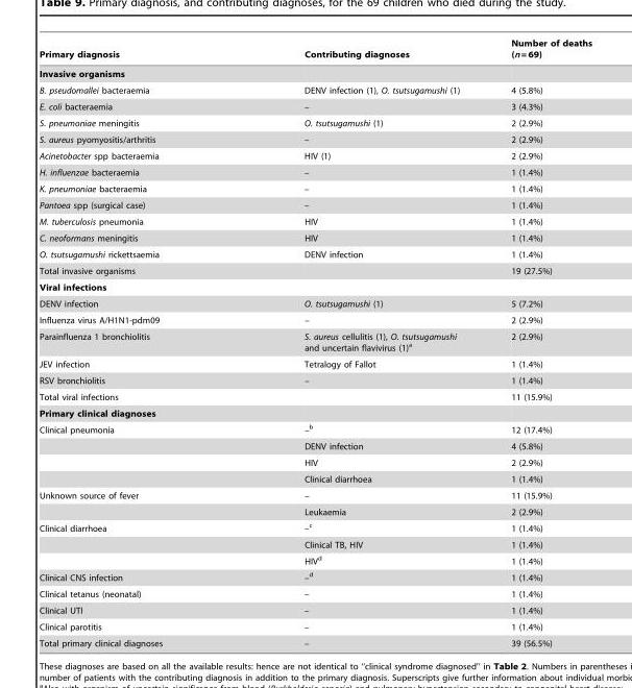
<table><thead><tr><td>Primary diagnosis</td><td>Contributing diagnoses</td><td>Number of deaths (n = 69)</td></tr></thead><tbody><tr><td colspan="3">Invasive organisms</td></tr><tr><td>B. pseudomallei bacteraemia</td><td>DENV infection (1), O. tsutsugamushi (1)</td><td>4 (5.8%)</td></tr><tr><td>E. coli bacteraemia</td><td>–</td><td>3 (4.3%)</td></tr><tr><td>S. pneumoniae meningitis</td><td>O. tsutsugamushi (1)</td><td>2 (2.9%)</td></tr><tr><td>S. aureus pyomyositis/arthritis</td><td>–</td><td>2 (2.9%)</td></tr><tr><td>Acinetobacter spp bacteraemia</td><td>HIV (1)</td><td>2 (2.9%)</td></tr><tr><td>H. influenzae bacteraemia</td><td>–</td><td>1 (1.4%)</td></tr><tr><td>K. pneumoniae bacteraemia</td><td>–</td><td>1 (1.4%)</td></tr><tr><td>Pantoea spp (surgical case)</td><td>–</td><td>1 (1.4%)</td></tr><tr><td>M. tuberculosis pneumonia</td><td>HIV</td><td>1 (1.4%)</td></tr><tr><td>C. neoformans meningitis</td><td>HIV</td><td>1 (1.4%)</td></tr><tr><td>O. tsutsugamushi rickettsaemia</td><td>DENV infection</td><td>1 (1.4%)</td></tr><tr><td>Total invasive organisms</td><td></td><td>19 (27.5%)</td></tr><tr><td colspan="3">Viral infections</td></tr><tr><td>DENV infection</td><td>O. tsutsugamushi (1)</td><td>5 (7.2%)</td></tr><tr><td>Influenza virus A/H1N1-pdm09</td><td>–</td><td>2 (2.9%)</td></tr><tr><td>Parainfluenza 1 bronchiolitis</td><td>S. aureus cellulitis (1), O. tsutsugamushi and uncertain flavivirus (1)<sup>a</sup></td><td>2 (2.9%)</td></tr><tr><td>JEV infection</td><td>Tetralogy of Fallot</td><td>1 (1.4%)</td></tr><tr><td>RSV bronchiolitis</td><td>–</td><td>1 (1.4%)</td></tr><tr><td>Total viral infections</td><td></td><td>11 (15.9%)</td></tr><tr><td colspan="3">Primary clinical diagnoses</td></tr><tr><td rowspan="4">Clinical pneumonia</td><td>–b</td><td>12 (17.4%)</td></tr><tr><td>DENV infection</td><td>4 (5.8%)</td></tr><tr><td>HIV</td><td>2 (2.9%)</td></tr><tr><td>Clinical diarrhoea</td><td>1 (1.4%)</td></tr><tr><td rowspan="2">Unknown source of fever</td><td>–</td><td>11 (15.9%)</td></tr><tr><td>Leukaemia</td><td>2 (2.9%)</td></tr><tr><td rowspan="3">Clinical diarrhoea</td><td>–c</td><td>1 (1.4%)</td></tr><tr><td>Clinical TB, HIV</td><td>1 (1.4%)</td></tr><tr><td>HIV<sup>d</sup></td><td>1 (1.4%)</td></tr><tr><td>Clinical CNS infection</td><td>–d</td><td>1 (1.4%)</td></tr><tr><td>Clinical tetanus (neonatal)</td><td>–</td><td>1 (1.4%)</td></tr><tr><td>Clinical UTI</td><td>–</td><td>1 (1.4%)</td></tr><tr><td>Clinical parotitis</td><td>–</td><td>1 (1.4%)</td></tr><tr><td>Total primary clinical diagnoses</td><td>–</td><td>39 (56.5%)</td></tr></tbody></table>